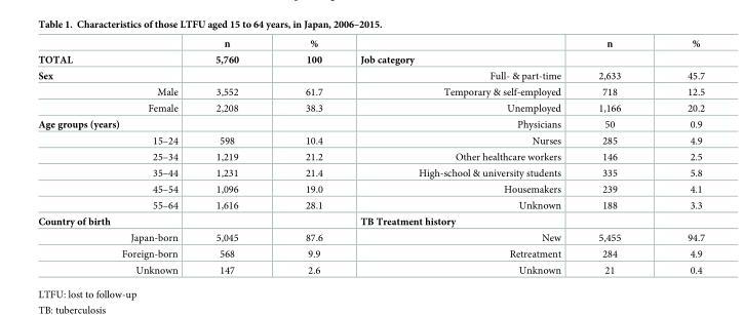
<table><thead><tr><td></td><td>n</td><td>%</td><td></td><td>n</td><td>%</td></tr></thead><tbody><tr><td>TOTAL</td><td>5,760</td><td>100</td><td>Job category</td><td></td><td></td></tr><tr><td>Sex</td><td></td><td></td><td>Full- &amp; part-time</td><td>2,633</td><td>45.7</td></tr><tr><td>Male</td><td>3,552</td><td>61.7</td><td>Temporary &amp; self-employed</td><td>718</td><td>12.5</td></tr><tr><td>Female</td><td>2,208</td><td>38.3</td><td>Unemployed</td><td>1,166</td><td>20.2</td></tr><tr><td>Age groups (years)</td><td></td><td></td><td>Physicians</td><td>50</td><td>0.9</td></tr><tr><td>15–24</td><td>598</td><td>10.4</td><td>Nurses</td><td>285</td><td>4.9</td></tr><tr><td>25–34</td><td>1,219</td><td>21.2</td><td>Other healthcare workers</td><td>146</td><td>2.5</td></tr><tr><td>35–44</td><td>1,231</td><td>21.4</td><td>High-school &amp; university students</td><td>335</td><td>5.8</td></tr><tr><td>45–54</td><td>1,096</td><td>19.0</td><td>Housemakers</td><td>239</td><td>4.1</td></tr><tr><td>55–64</td><td>1,616</td><td>28.1</td><td>Unknown</td><td>188</td><td>3.3</td></tr><tr><td>Country of birth</td><td></td><td></td><td>TB Treatment history</td><td></td><td></td></tr><tr><td>Japan-born</td><td>5,045</td><td>87.6</td><td>New</td><td>5,455</td><td>94.7</td></tr><tr><td>Foreign-born</td><td>568</td><td>9.9</td><td>Retreatment</td><td>284</td><td>4.9</td></tr><tr><td>Unknown</td><td>147</td><td>2.6</td><td>Unknown</td><td>21</td><td>0.4</td></tr></tbody></table>